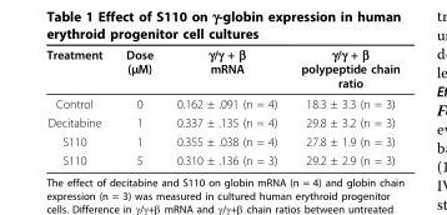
<table><thead><tr><td>Treatment</td><td>Dose (μM)</td><td>γ/γ + β mRNA</td><td>γ/γ + β polypeptide chain ratio</td></tr></thead><tbody><tr><td>Control</td><td>0</td><td>0.162 ± .091 (n = 4)</td><td>18.3 ± 3.3 (n = 3)</td></tr><tr><td>Decitabine</td><td>1</td><td>0.337 ± .135 (n = 4)</td><td>29.8 ± 3.2 (n = 3)</td></tr><tr><td>S110</td><td>1</td><td>0.355 ± .038 (n = 4)</td><td>27.8 ± 1.9 (n = 3)</td></tr><tr><td>S110</td><td>5</td><td>0.310 ± .136 (n = 3)</td><td>29.2 ± 2.9 (n = 3)</td></tr></tbody></table>